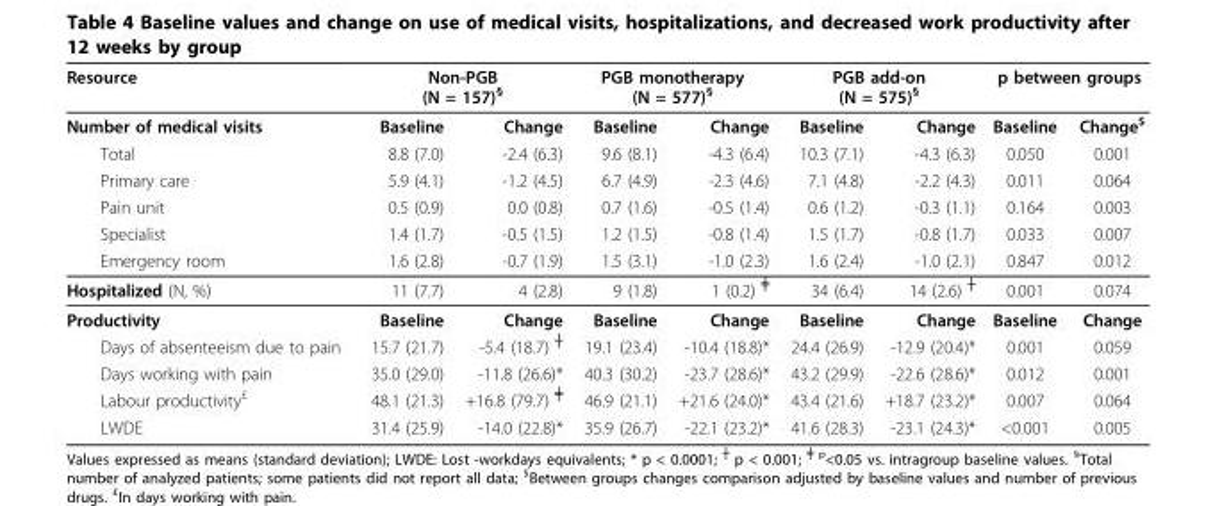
<table><thead><tr><td rowspan="2">Resource Number of medical visits</td><td colspan="2">Non-PGB (N = 157)<sup>§</sup></td><td colspan="2">PGB monotherapy (N = 577)<sup>§</sup></td><td colspan="2">PGB add-on (N = 575)<sup>§</sup></td><td colspan="2">p between groups</td></tr><tr><td>Baseline</td><td>Change</td><td>Baseline</td><td>Change</td><td>Baseline</td><td>Change</td><td>Baseline</td><td>Change<sup>$</sup></td></tr></thead><tbody><tr><td>Total</td><td>8.8 (7.0)</td><td>-2.4 (6.3)</td><td>9.6 (8.1)</td><td>-4.3 (6.4)</td><td>10.3 (7.1)</td><td>-4.3 (6.3)</td><td>0.050</td><td>0.001</td></tr><tr><td>Primary care</td><td>5.9 (4.1)</td><td>-1.2 (4.5)</td><td>6.7 (4.9)</td><td>-2.3 (4.6)</td><td>7.1 (4.8)</td><td>-2.2 (4.3)</td><td>0.011</td><td>0.064</td></tr><tr><td>Pain unit</td><td>0.5 (0.9)</td><td>0.0 (0.8)</td><td>0.7 (1.6)</td><td>-0.5 (1.4)</td><td>0.6 (1.2)</td><td>-0.3 (1.1)</td><td>0.164</td><td>0.003</td></tr><tr><td>Specialist</td><td>1.4 (1.7)</td><td>-0.5 (1.5)</td><td>1.2 (1.5)</td><td>-0.8 (1.4)</td><td>1.5 (1.7)</td><td>-0.8 (1.7)</td><td>0.033</td><td>0.007</td></tr><tr><td>Emergency room</td><td>1.6 (2.8)</td><td>-0.7 (1.9)</td><td>1.5 (3.1)</td><td>-1.0 (2.3)</td><td>1.6 (2.4)</td><td>-1.0 (2.1)</td><td>0.847</td><td>0.012</td></tr><tr><td>Hospitalized (N, %)</td><td>11 (7.7)</td><td>4 (2.8)</td><td>9 (1.8)</td><td>1 (0.2) <sup>╪</sup></td><td>34 (6.4)</td><td>14 (2.6) <sup>┼</sup></td><td>0.001</td><td>0.074</td></tr><tr><td>Productivity</td><td>Baseline</td><td>Change</td><td>Baseline</td><td>Change</td><td>Baseline</td><td>Change</td><td>Baseline</td><td>Change</td></tr><tr><td>Days of absenteeism due to pain</td><td>15.7 (21.7)</td><td>-5.4 (18.7) <sup>┼</sup></td><td>19.1 (23.4)</td><td>-10.4 (18.8)*</td><td>24.4 (26.9)</td><td>-12.9 (20.4)*</td><td>0.001</td><td>0.059</td></tr><tr><td>Days working with pain</td><td>35.0 (29.0)</td><td>-11.8 (26.6)*</td><td>40.3 (30.2)</td><td>-23.7 (28.6)*</td><td>43.2 (29.9)</td><td>-22.6 (28.6)*</td><td>0.012</td><td>0.001</td></tr><tr><td>Labour productivity<sup>£</sup></td><td>48.1 (21.3)</td><td>+16.8 (79.7) <sup>╪</sup></td><td>46.9 (21.1)</td><td>+21.6 (24.0)*</td><td>43.4 (21.6)</td><td>+18.7 (23.2)*</td><td>0.007</td><td>0.064</td></tr><tr><td>LWDE</td><td>31.4 (25.9)</td><td>-14.0 (22.8)*</td><td>35.9 (26.7)</td><td>-22.1 (23.2)*</td><td>41.6 (28.3)</td><td>-23.1 (24.3)*</td><td>&lt;0.001</td><td>0.005</td></tr></tbody></table>